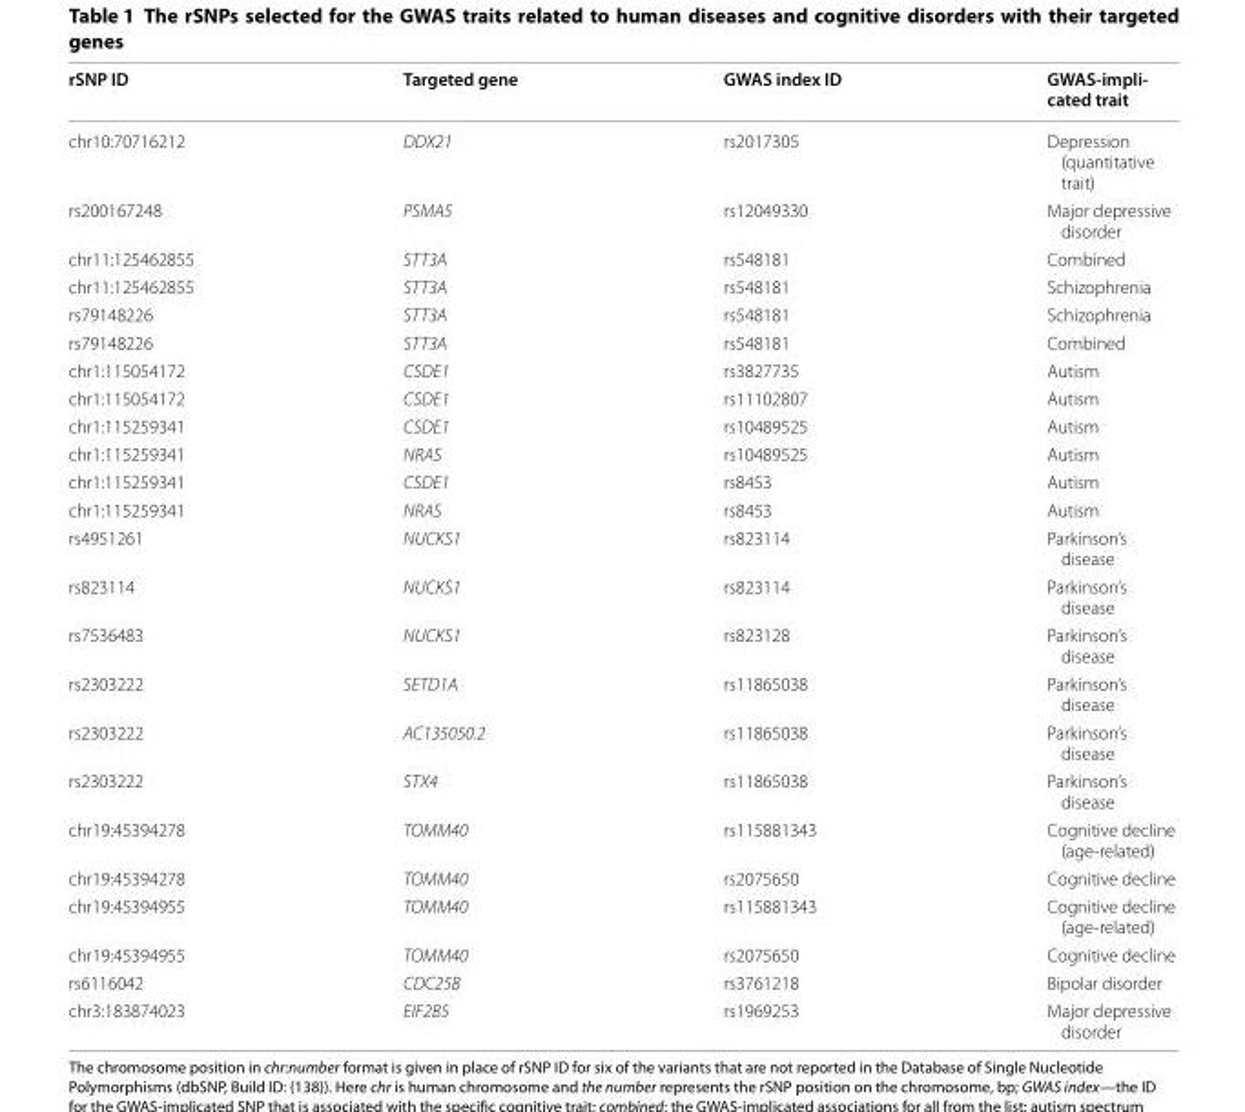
<table><thead><tr><td>rSNP ID</td><td>Targeted gene</td><td>GWAS index ID</td><td>GWAS‑impli‑ cated trait</td></tr></thead><tbody><tr><td>chr10:70716212</td><td>DDX21</td><td>rs2017305</td><td>Depression (quantitative trait)</td></tr><tr><td>rs200167248</td><td>PSMA5</td><td>rs12049330</td><td>Major depressive disorder</td></tr><tr><td>chr11:125462855</td><td>STT3A</td><td>rs548181</td><td>Combined</td></tr><tr><td>chr11:125462855</td><td>STT3A</td><td>rs548181</td><td>Schizophrenia</td></tr><tr><td>rs79148226</td><td>STT3A</td><td>rs548181</td><td>Schizophrenia</td></tr><tr><td>rs79148226</td><td>STT3A</td><td>rs548181</td><td>Combined</td></tr><tr><td>chr1:115054172</td><td>CSDE1</td><td>rs3827735</td><td>Autism</td></tr><tr><td>chr1:115054172</td><td>CSDE1</td><td>rs11102807</td><td>Autism</td></tr><tr><td>chr1:115259341</td><td>CSDE1</td><td>rs10489525</td><td>Autism</td></tr><tr><td>chr1:115259341</td><td>NRAS</td><td>rs10489525</td><td>Autism</td></tr><tr><td>chr1:115259341</td><td>CSDE1</td><td>rs8453</td><td>Autism</td></tr><tr><td>chr1:115259341</td><td>NRAS</td><td>rs8453</td><td>Autism</td></tr><tr><td>rs4951261</td><td>NUCKS1</td><td>rs823114</td><td>Parkinson’s disease</td></tr><tr><td>rs823114</td><td>NUCKS1</td><td>rs823114</td><td>Parkinson’s disease</td></tr><tr><td>rs7536483</td><td>NUCKS1</td><td>rs823128</td><td>Parkinson’s disease</td></tr><tr><td>rs2303222</td><td>SETD1A</td><td>rs11865038</td><td>Parkinson’s disease</td></tr><tr><td>rs2303222</td><td>AC135050.2</td><td>rs11865038</td><td>Parkinson’s disease</td></tr><tr><td>rs2303222</td><td>STX4</td><td>rs11865038</td><td>Parkinson’s disease</td></tr><tr><td>chr19:45394278</td><td>TOMM40</td><td>rs115881343</td><td>Cognitive decline (age-related)</td></tr><tr><td>chr19:45394278</td><td>TOMM40</td><td>rs2075650</td><td>Cognitive decline</td></tr><tr><td>chr19:45394955</td><td>TOMM40</td><td>rs115881343</td><td>Cognitive decline (age-related)</td></tr><tr><td>chr19:45394955</td><td>TOMM40</td><td>rs2075650</td><td>Cognitive decline</td></tr><tr><td>rs6116042</td><td>CDC25B</td><td>rs3761218</td><td>Bipolar disorder</td></tr><tr><td>chr3:183874023</td><td>EIF2B5</td><td>rs1969253</td><td>Major depressive disorder</td></tr></tbody></table>